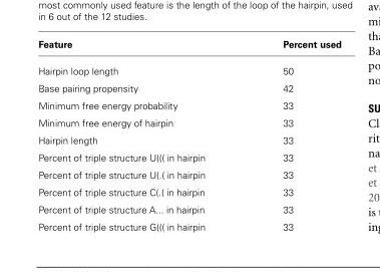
<table><thead><tr><td>Feature</td><td>Percent used</td></tr></thead><tbody><tr><td>Hairpin loop length</td><td>50</td></tr><tr><td>Base pairing propensity</td><td>42</td></tr><tr><td>Minimum free energy probability</td><td>33</td></tr><tr><td>Minimum free energy of hairpin</td><td>33</td></tr><tr><td>Hairpin length</td><td>33</td></tr><tr><td>Percent of triple structure U((( in hairpin</td><td>33</td></tr><tr><td>Percent of triple structure U(.( in hairpin</td><td>33</td></tr><tr><td>Percent of triple structure C(.( in hairpin</td><td>33</td></tr><tr><td>Percent of triple structure A... in hairpin</td><td>33</td></tr><tr><td>Percent of triple structure G((( in hairpin</td><td>33</td></tr></tbody></table>